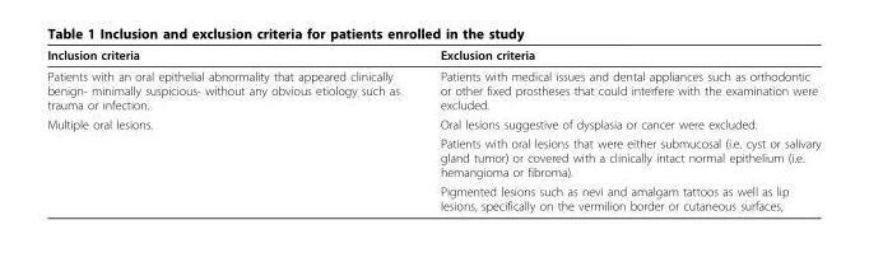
<table><thead><tr><td>Inclusion criteria</td><td>Exclusion criteria</td></tr></thead><tbody><tr><td>Patients with an oral epithelial abnormality that appeared clinically benign- minimally suspicious- without any obvious etiology such as trauma or infection.</td><td>Patients with medical issues and dental appliances such as orthodontic or other fixed prostheses that could interfere with the examination were excluded.</td></tr><tr><td rowspan="3">Multiple oral lesions.</td><td>Oral lesions suggestive of dysplasia or cancer were excluded.</td></tr><tr><td>Patients with oral lesions that were either submucosal (i.e. cyst or salivary gland tumor) or covered with a clinically intact normal epithelium (i.e. hemangioma or fibroma).</td></tr><tr><td>Pigmented lesions such as nevi and amalgam tattoos as well as lip lesions, specifically on the vermilion border or cutaneous surfaces,</td></tr></tbody></table>